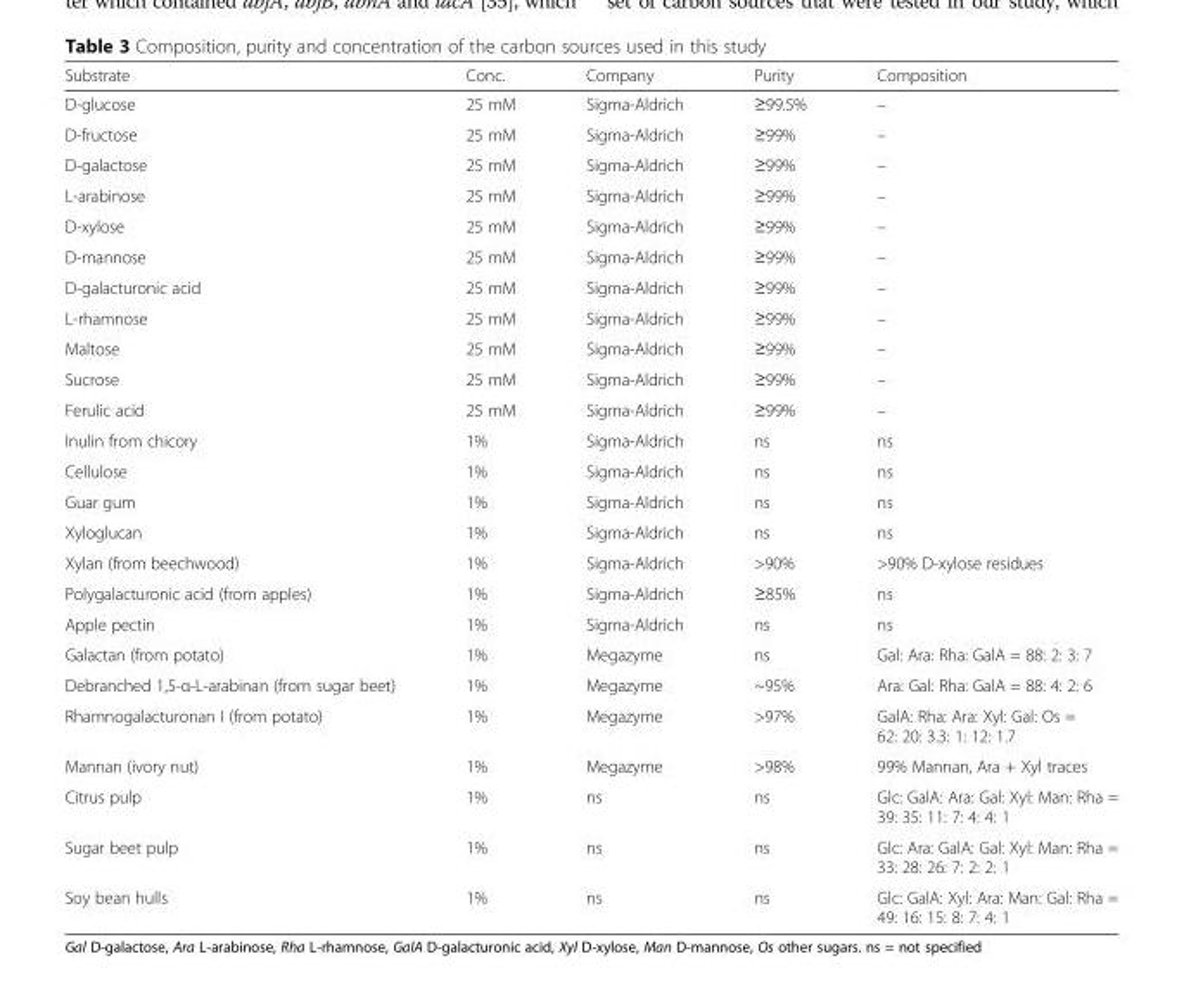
<table><thead><tr><td>Substrate</td><td>Conc.</td><td>Company</td><td>Purity</td><td>Composition</td></tr></thead><tbody><tr><td>D-glucose</td><td>25 mM</td><td>Sigma-Aldrich</td><td>≥99.5%</td><td>–</td></tr><tr><td>D-fructose</td><td>25 mM</td><td>Sigma-Aldrich</td><td>≥99%</td><td>–</td></tr><tr><td>D-galactose</td><td>25 mM</td><td>Sigma-Aldrich</td><td>≥99%</td><td>–</td></tr><tr><td>L-arabinose</td><td>25 mM</td><td>Sigma-Aldrich</td><td>≥99%</td><td>–</td></tr><tr><td>D-xylose</td><td>25 mM</td><td>Sigma-Aldrich</td><td>≥99%</td><td>–</td></tr><tr><td>D-mannose</td><td>25 mM</td><td>Sigma-Aldrich</td><td>≥99%</td><td>–</td></tr><tr><td>D-galacturonic acid</td><td>25 mM</td><td>Sigma-Aldrich</td><td>≥99%</td><td>–</td></tr><tr><td>L-rhamnose</td><td>25 mM</td><td>Sigma-Aldrich</td><td>≥99%</td><td>–</td></tr><tr><td>Maltose</td><td>25 mM</td><td>Sigma-Aldrich</td><td>≥99%</td><td>–</td></tr><tr><td>Sucrose</td><td>25 mM</td><td>Sigma-Aldrich</td><td>≥99%</td><td>–</td></tr><tr><td>Ferulic acid</td><td>25 mM</td><td>Sigma-Aldrich</td><td>≥99%</td><td>–</td></tr><tr><td>Inulin from chicory</td><td>1%</td><td>Sigma-Aldrich</td><td>ns</td><td>ns</td></tr><tr><td>Cellulose</td><td>1%</td><td>Sigma-Aldrich</td><td>ns</td><td>ns</td></tr><tr><td>Guar gum</td><td>1%</td><td>Sigma-Aldrich</td><td>ns</td><td>ns</td></tr><tr><td>Xyloglucan</td><td>1%</td><td>Sigma-Aldrich</td><td>ns</td><td>ns</td></tr><tr><td>Xylan (from beechwood)</td><td>1%</td><td>Sigma-Aldrich</td><td>&gt;90%</td><td>&gt;90% D-xylose residues</td></tr><tr><td>Polygalacturonic acid (from apples)</td><td>1%</td><td>Sigma-Aldrich</td><td>≥85%</td><td>ns</td></tr><tr><td>Apple pectin</td><td>1%</td><td>Sigma-Aldrich</td><td>ns</td><td>ns</td></tr><tr><td>Galactan (from potato)</td><td>1%</td><td>Megazyme</td><td>ns</td><td>Gal: Ara: Rha: GalA = 88: 2: 3: 7</td></tr><tr><td>Debranched 1,5-α-L-arabinan (from sugar beet)</td><td>1%</td><td>Megazyme</td><td>~95%</td><td>Ara: Gal: Rha: GalA = 88: 4: 2: 6</td></tr><tr><td>Rhamnogalacturonan I (from potato)</td><td>1%</td><td>Megazyme</td><td>&gt;97%</td><td>GalA: Rha: Ara: Xyl: Gal: Os = 62: 20: 3.3: 1: 12: 1.7</td></tr><tr><td>Mannan (ivory nut)</td><td>1%</td><td>Megazyme</td><td>&gt;98%</td><td>99% Mannan, Ara + Xyl traces</td></tr><tr><td>Citrus pulp</td><td>1%</td><td>ns</td><td>ns</td><td>Glc: GalA: Ara: Gal: Xyl: Man: Rha = 39: 35: 11: 7: 4: 4: 1</td></tr><tr><td>Sugar beet pulp</td><td>1%</td><td>ns</td><td>ns</td><td>Glc: Ara: GalA: Gal: Xyl: Man: Rha = 33: 28: 26: 7: 2: 2: 1</td></tr><tr><td>Soy bean hulls</td><td>1%</td><td>ns</td><td>ns</td><td>Glc: GalA: Xyl: Ara: Man: Gal: Rha = 49: 16: 15: 8: 7: 4: 1</td></tr></tbody></table>